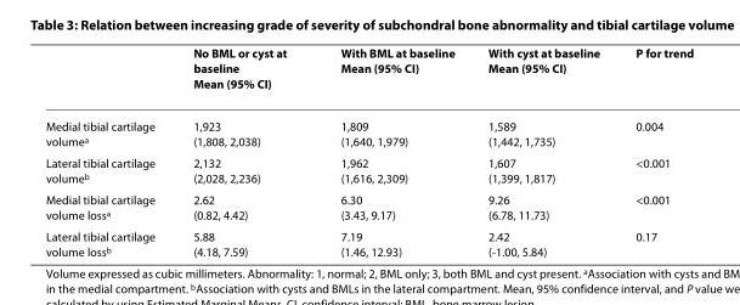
<table><thead><tr><td></td><td>No BML or cyst at baseline Mean (95% CI)</td><td>With BML at baseline Mean (95% CI)</td><td>With cyst at baseline Mean (95% CI)</td><td>P for trend</td></tr></thead><tbody><tr><td>Medial tibial cartilage volume<sup>a</sup></td><td>1,923 (1,808, 2,038)</td><td>1,809 (1,640, 1,979)</td><td>1,589 (1,442, 1,735)</td><td>0.004</td></tr><tr><td>Lateral tibial cartilage volume<sup>b</sup></td><td>2,132 (2,028, 2,236)</td><td>1,962 (1,616, 2,309)</td><td>1,607 (1,399, 1,817)</td><td>&lt;0.001</td></tr><tr><td>Medial tibial cartilage volume loss<sup>a</sup></td><td>2.62 (0.82, 4.42)</td><td>6.30 (3.43, 9.17)</td><td>9.26 (6.78, 11.73)</td><td>&lt;0.001</td></tr><tr><td>Lateral tibial cartilage volume loss<sup>b</sup></td><td>5.88 (4.18, 7.59)</td><td>7.19 (1.46, 12.93)</td><td>2.42 (-1.00, 5.84)</td><td>0.17</td></tr></tbody></table>